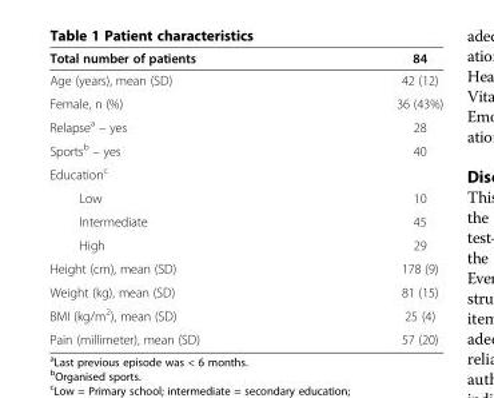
<table><thead><tr><td>Total number of patients</td><td>84</td></tr></thead><tbody><tr><td>Age (years), mean (SD)</td><td>42 (12)</td></tr><tr><td>Female, n (%)</td><td>36 (43%)</td></tr><tr><td>Relapse<sup>a</sup> – yes</td><td>28</td></tr><tr><td>Sports<sup>b</sup> – yes</td><td>40</td></tr><tr><td colspan="2">Education<sup>c</sup></td></tr><tr><td>Low</td><td>10</td></tr><tr><td>Intermediate</td><td>45</td></tr><tr><td>High</td><td>29</td></tr><tr><td>Height (cm), mean (SD)</td><td>178 (9)</td></tr><tr><td>Weight (kg), mean (SD)</td><td>81 (15)</td></tr><tr><td>BMI (kg/m<sup>2</sup>), mean (SD)</td><td>25 (4)</td></tr><tr><td>Pain (millimeter), mean (SD)</td><td>57 (20)</td></tr></tbody></table>